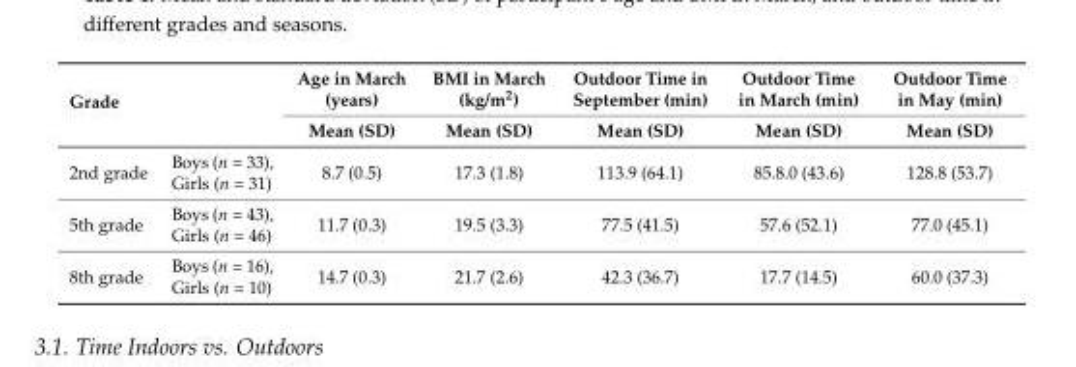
<table><thead><tr><td rowspan="2" colspan="2">Grade</td><td rowspan="3">Age in March (years) Mean (SD) 8.7 (0.5)</td><td rowspan="3">BMI in March (kg/m<sup>2</sup>) Mean (SD) 17.3 (1.8)</td><td rowspan="3">Outdoor Time in September (min) Mean (SD) 113.9 (64.1)</td><td rowspan="3">Outdoor Time in March (min) Mean (SD) 85.8.0 (43.6)</td><td rowspan="3">Outdoor Time in May (min) Mean (SD) 128.8 (53.7)</td></tr><tr></tr><tr><td>2nd grade</td><td>Boys (n = 33), Girls (n = 31)</td></tr></thead><tbody><tr><td>5th grade</td><td>Boys (n = 43), Girls (n = 46)</td><td>11.7 (0.3)</td><td>19.5 (3.3)</td><td>77.5 (41.5)</td><td>57.6 (52.1)</td><td>77.0 (45.1)</td></tr><tr><td>8th grade</td><td>Boys (n = 16), Girls (n = 10)</td><td>14.7 (0.3)</td><td>21.7 (2.6)</td><td>42.3 (36.7)</td><td>17.7 (14.5)</td><td>60.0 (37.3)</td></tr></tbody></table>